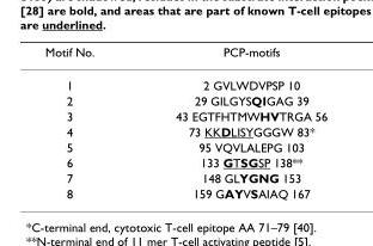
<table><thead><tr><td>Motif No.</td><td>PCP-motifs</td></tr></thead><tbody><tr><td>1</td><td>2 GVLWDVPSP 10</td></tr><tr><td>2</td><td>29 GILGYSQIGAG 39</td></tr><tr><td>3</td><td>43 EGTFHTMWHVTRGA 56</td></tr><tr><td>4</td><td>73 KKDLISYGGGW 83*</td></tr><tr><td>5</td><td>95 VQVLALEPG 103</td></tr><tr><td>6</td><td>133 GTSGSP 138**</td></tr><tr><td>7</td><td>148 GLYGNG 153</td></tr><tr><td>8</td><td>159 GAYVSAIAQ 167</td></tr></tbody></table>